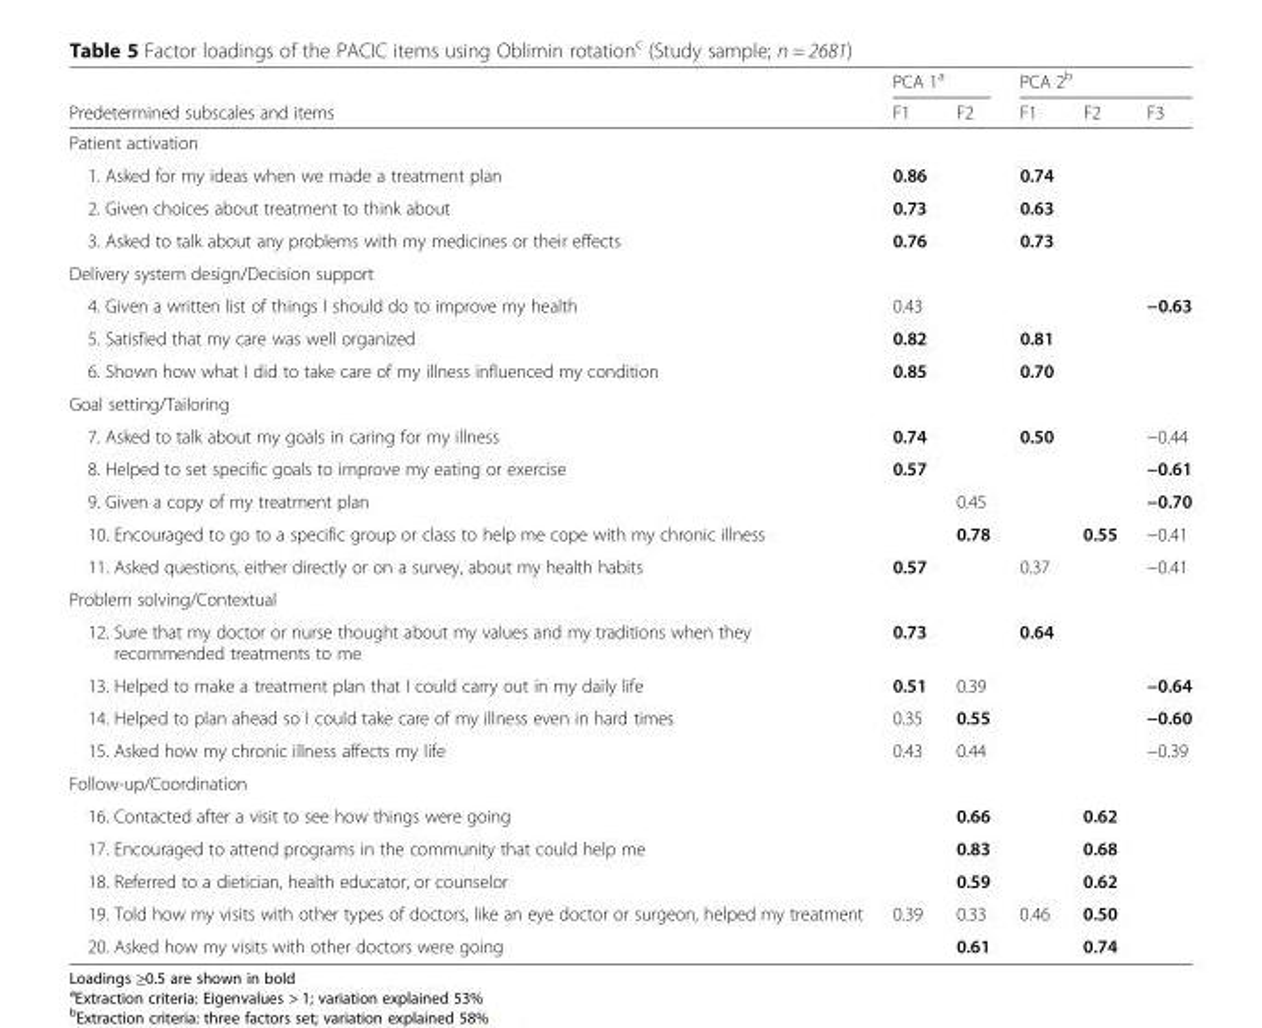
<table><thead><tr><td rowspan="2">Predetermined subscales and items</td><td colspan="2">PCA 1<sup>a</sup></td><td colspan="3">PCA 2<sup>b</sup></td></tr><tr><td>F1</td><td>F2</td><td>F1</td><td>F2</td><td>F3</td></tr></thead><tbody><tr><td colspan="6">Patient activation</td></tr><tr><td>1. Asked for my ideas when we made a treatment plan</td><td>0.86</td><td></td><td>0.74</td><td></td><td></td></tr><tr><td>2. Given choices about treatment to think about</td><td>0.73</td><td></td><td>0.63</td><td></td><td></td></tr><tr><td>3. Asked to talk about any problems with my medicines or their effects</td><td>0.76</td><td></td><td>0.73</td><td></td><td></td></tr><tr><td colspan="6">Delivery system design/Decision support</td></tr><tr><td>4. Given a written list of things I should do to improve my health</td><td>0.43</td><td></td><td></td><td></td><td>−0.63</td></tr><tr><td>5. Satisfied that my care was well organized</td><td>0.82</td><td></td><td>0.81</td><td></td><td></td></tr><tr><td>6. Shown how what I did to take care of my illness influenced my condition</td><td>0.85</td><td></td><td>0.70</td><td></td><td></td></tr><tr><td colspan="6">Goal setting/Tailoring</td></tr><tr><td>7. Asked to talk about my goals in caring for my illness</td><td>0.74</td><td></td><td>0.50</td><td></td><td>−0.44</td></tr><tr><td>8. Helped to set specific goals to improve my eating or exercise</td><td>0.57</td><td></td><td></td><td></td><td>−0.61</td></tr><tr><td>9. Given a copy of my treatment plan</td><td></td><td>0.45</td><td></td><td></td><td>−0.70</td></tr><tr><td>10. Encouraged to go to a specific group or class to help me cope with my chronic illness</td><td></td><td>0.78</td><td></td><td>0.55</td><td>−0.41</td></tr><tr><td>11. Asked questions, either directly or on a survey, about my health habits</td><td>0.57</td><td></td><td>0.37</td><td></td><td>−0.41</td></tr><tr><td colspan="6">Problem solving/Contextual</td></tr><tr><td>12. Sure that my doctor or nurse thought about my values and my traditions when they recommended treatments to me</td><td>0.73</td><td></td><td>0.64</td><td></td><td></td></tr><tr><td>13. Helped to make a treatment plan that I could carry out in my daily life</td><td>0.51</td><td>0.39</td><td></td><td></td><td>−0.64</td></tr><tr><td>14. Helped to plan ahead so I could take care of my illness even in hard times</td><td>0.35</td><td>0.55</td><td></td><td></td><td>−0.60</td></tr><tr><td>15. Asked how my chronic illness affects my life</td><td>0.43</td><td>0.44</td><td></td><td></td><td>−0.39</td></tr><tr><td colspan="6">Follow-up/Coordination</td></tr><tr><td>16. Contacted after a visit to see how things were going</td><td></td><td>0.66</td><td></td><td>0.62</td><td></td></tr><tr><td>17. Encouraged to attend programs in the community that could help me</td><td></td><td>0.83</td><td></td><td>0.68</td><td></td></tr><tr><td>18. Referred to a dietician, health educator, or counselor</td><td></td><td>0.59</td><td></td><td>0.62</td><td></td></tr><tr><td>19. Told how my visits with other types of doctors, like an eye doctor or surgeon, helped my treatment</td><td>0.39</td><td>0.33</td><td>0.46</td><td>0.50</td><td></td></tr><tr><td>20. Asked how my visits with other doctors were going</td><td></td><td>0.61</td><td></td><td>0.74</td><td></td></tr></tbody></table>